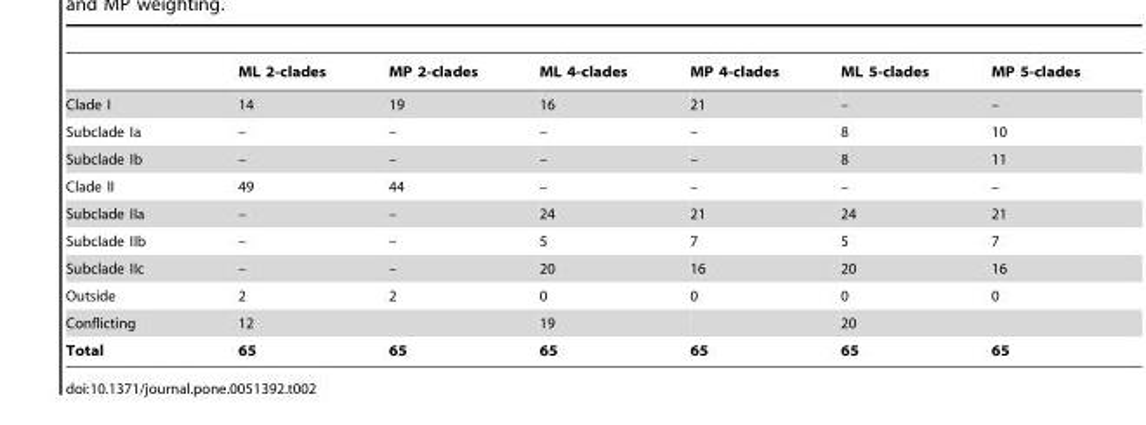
<table><thead><tr><td></td><td>ML 2-clades</td><td>MP 2-clades</td><td>ML 4-clades</td><td>MP 4-clades</td><td>ML 5-clades</td><td>MP 5-clades</td></tr></thead><tbody><tr><td>Clade I</td><td>14</td><td>19</td><td>16</td><td>21</td><td>–</td><td>–</td></tr><tr><td>Subclade Ia</td><td>–</td><td>–</td><td>–</td><td>–</td><td>8</td><td>10</td></tr><tr><td>Subclade Ib</td><td>–</td><td>–</td><td>–</td><td>–</td><td>8</td><td>11</td></tr><tr><td>Clade II</td><td>49</td><td>44</td><td>–</td><td>–</td><td>–</td><td>–</td></tr><tr><td>Subclade IIa</td><td>–</td><td>–</td><td>24</td><td>21</td><td>24</td><td>21</td></tr><tr><td>Subclade IIb</td><td>–</td><td>–</td><td>5</td><td>7</td><td>5</td><td>7</td></tr><tr><td>Subclade IIc</td><td>–</td><td>–</td><td>20</td><td>16</td><td>20</td><td>16</td></tr><tr><td>Outside</td><td>2</td><td>2</td><td>0</td><td>0</td><td>0</td><td>0</td></tr><tr><td>Conflicting</td><td>12</td><td></td><td>19</td><td></td><td>20</td><td></td></tr><tr><td>Total</td><td>65</td><td>65</td><td>65</td><td>65</td><td>65</td><td>65</td></tr></tbody></table>